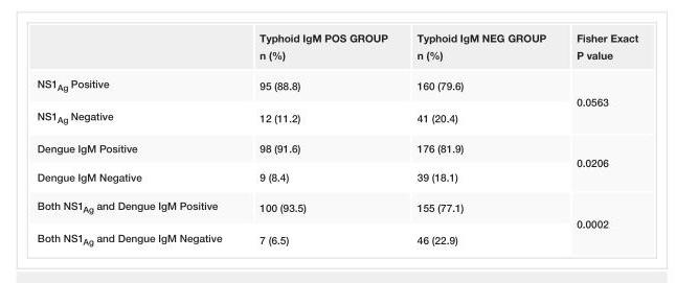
<table><thead><tr><td></td><td>Typhoid IgM POS GROUP n (%)</td><td>Typhoid IgM NEG GROUP n (%)</td><td>Fisher Exact P value</td></tr></thead><tbody><tr><td>NS1<sub>Ag</sub> Positive</td><td>95 (88.8)</td><td>160 (79.6)</td><td rowspan="2">0.0563</td></tr><tr><td>NS1<sub>Ag</sub> Negative</td><td>12 (11.2)</td><td>41 (20.4)</td></tr><tr><td>Dengue IgM Positive</td><td>98 (91.6)</td><td>176 (81.9)</td><td rowspan="2">0.0206</td></tr><tr><td>Dengue IgM Negative</td><td>9 (8.4)</td><td>39 (18.1)</td></tr><tr><td>Both NS1<sub>Ag</sub> and Dengue IgM Positive</td><td>100 (93.5)</td><td>155 (77.1)</td><td rowspan="2">0.0002</td></tr><tr><td>Both NS1<sub>Ag</sub> and Dengue IgM Negative</td><td>7 (6.5)</td><td>46 (22.9)</td></tr></tbody></table>